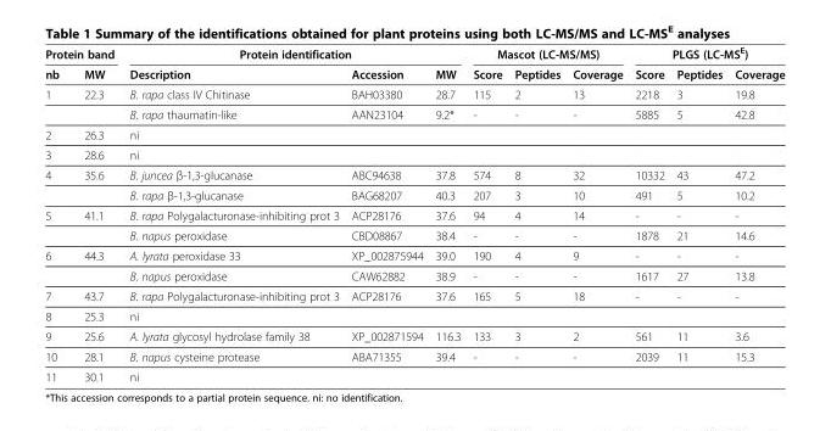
<table><thead><tr><td colspan="2">Protein band</td><td colspan="3">Protein identification</td><td colspan="3">Mascot (LC-MS/MS)</td><td colspan="3">PLGS (LC-MS<sup>E</sup>)</td></tr><tr><td>nb</td><td>MW</td><td>Description</td><td>Accession</td><td>MW</td><td>Score</td><td>Peptides</td><td>Coverage</td><td>Score</td><td>Peptides</td><td>Coverage</td></tr></thead><tbody><tr><td rowspan="2">1</td><td>22.3</td><td>B. rapa class IV Chitinase</td><td>BAH03380</td><td>28.7</td><td>115</td><td>2</td><td>13</td><td>2218</td><td>3</td><td>19.8</td></tr><tr><td></td><td>B. rapa thaumatin-like</td><td>AAN23104</td><td>9.2*</td><td>-</td><td>-</td><td>-</td><td>5885</td><td>5</td><td>42.8</td></tr><tr><td>2</td><td>26.3</td><td>ni</td><td></td><td></td><td></td><td></td><td></td><td></td><td></td><td></td></tr><tr><td>3</td><td>28.6</td><td>ni</td><td></td><td></td><td></td><td></td><td></td><td></td><td></td><td></td></tr><tr><td rowspan="2">4</td><td>35.6</td><td>B. juncea β-1,3-glucanase</td><td>ABC94638</td><td>37.8</td><td>574</td><td>8</td><td>32</td><td>10332</td><td>43</td><td>47.2</td></tr><tr><td></td><td>B. rapa β-1,3-glucanase</td><td>BAG68207</td><td>40.3</td><td>207</td><td>3</td><td>10</td><td>491</td><td>5</td><td>10.2</td></tr><tr><td rowspan="2">5</td><td>41.1</td><td>B. rapa Polygalacturonase-inhibiting prot 3</td><td>ACP28176</td><td>37.6</td><td>94</td><td>4</td><td>14</td><td>-</td><td>-</td><td>-</td></tr><tr><td></td><td>B. napus peroxidase</td><td>CBD08867</td><td>38.4</td><td>-</td><td>-</td><td>-</td><td>1878</td><td>21</td><td>14.6</td></tr><tr><td rowspan="2">6</td><td>44.3</td><td>A. lyrata peroxidase 33</td><td>XP_002875944</td><td>39.0</td><td>190</td><td>4</td><td>9</td><td>-</td><td>-</td><td>-</td></tr><tr><td></td><td>B. napus peroxidase</td><td>CAW62882</td><td>38.9</td><td>-</td><td>-</td><td>-</td><td>1617</td><td>27</td><td>13.8</td></tr><tr><td>7</td><td>43.7</td><td>B. rapa Polygalacturonase-inhibiting prot 3</td><td>ACP28176</td><td>37.6</td><td>165</td><td>5</td><td>18</td><td>-</td><td>-</td><td>-</td></tr><tr><td>8</td><td>25.3</td><td>ni</td><td></td><td></td><td></td><td></td><td></td><td></td><td></td><td></td></tr><tr><td>9</td><td>25.6</td><td>A. lyrata glycosyl hydrolase family 38</td><td>XP_002871594</td><td>116.3</td><td>133</td><td>3</td><td>2</td><td>561</td><td>11</td><td>3.6</td></tr><tr><td>10</td><td>28.1</td><td>B. napus cysteine protease</td><td>ABA71355</td><td>39.4</td><td>-</td><td>-</td><td>-</td><td>2039</td><td>11</td><td>15.3</td></tr><tr><td>11</td><td>30.1</td><td>ni</td><td></td><td></td><td></td><td></td><td></td><td></td><td></td><td></td></tr></tbody></table>